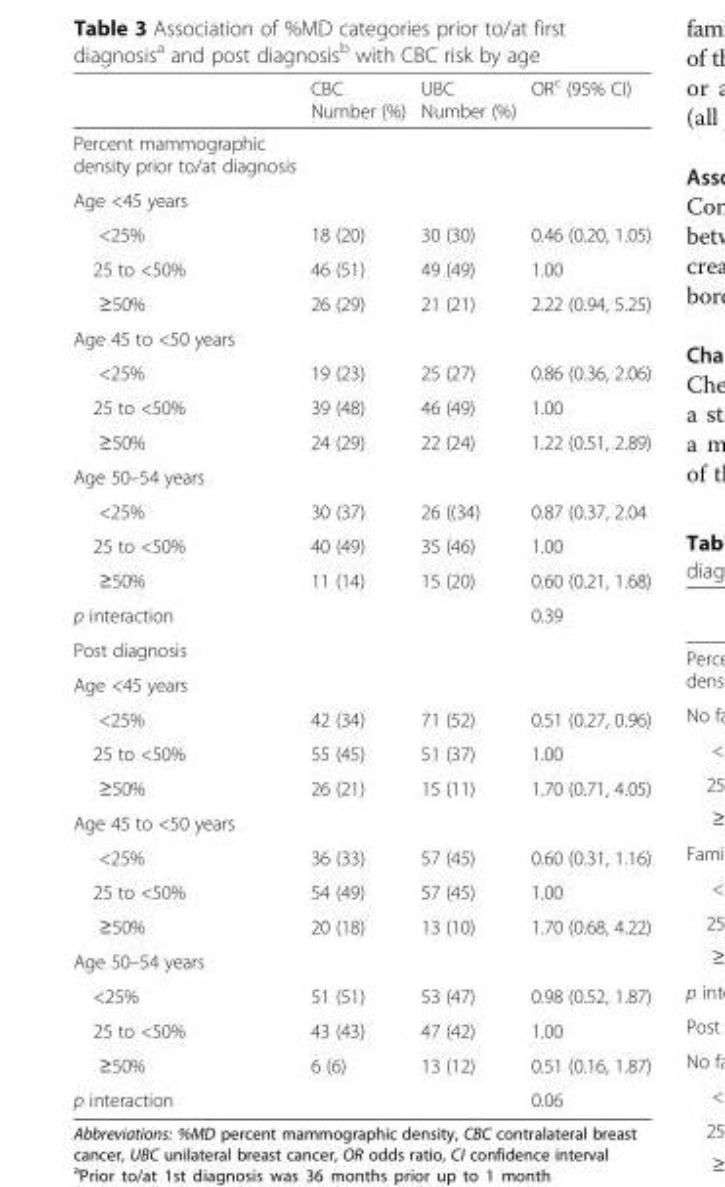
<table><thead><tr><td></td><td>CBC Number (%)</td><td>UBC Number (%)</td><td>OR<sup>c</sup> (95% CI)</td></tr></thead><tbody><tr><td colspan="4">Percent mammographic density prior to/at diagnosis</td></tr><tr><td colspan="4">Age &lt;45 years</td></tr><tr><td>&lt;25%</td><td>18 (20)</td><td>30 (30)</td><td>0.46 (0.20, 1.05)</td></tr><tr><td>25 to &lt;50%</td><td>46 (51)</td><td>49 (49)</td><td>1.00</td></tr><tr><td>≥50%</td><td>26 (29)</td><td>21 (21)</td><td>2.22 (0.94, 5.25)</td></tr><tr><td colspan="4">Age 45 to &lt;50 years</td></tr><tr><td>&lt;25%</td><td>19 (23)</td><td>25 (27)</td><td>0.86 (0.36, 2.06)</td></tr><tr><td>25 to &lt;50%</td><td>39 (48)</td><td>46 (49)</td><td>1.00</td></tr><tr><td>≥50%</td><td>24 (29)</td><td>22 (24)</td><td>1.22 (0.51, 2.89)</td></tr><tr><td colspan="4">Age 50–54 years</td></tr><tr><td>&lt;25%</td><td>30 (37)</td><td>26 ((34)</td><td>0.87 (0.37, 2.04</td></tr><tr><td>25 to &lt;50%</td><td>40 (49)</td><td>35 (46)</td><td>1.00</td></tr><tr><td>≥50%</td><td>11 (14)</td><td>15 (20)</td><td>0.60 (0.21, 1.68)</td></tr><tr><td>p interaction</td><td></td><td></td><td>0.39</td></tr><tr><td colspan="4">Post diagnosis</td></tr><tr><td colspan="4">Age &lt;45 years</td></tr><tr><td>&lt;25%</td><td>42 (34)</td><td>71 (52)</td><td>0.51 (0.27, 0.96)</td></tr><tr><td>25 to &lt;50%</td><td>55 (45)</td><td>51 (37)</td><td>1.00</td></tr><tr><td>≥50%</td><td>26 (21)</td><td>15 (11)</td><td>1.70 (0.71, 4.05)</td></tr><tr><td colspan="4">Age 45 to &lt;50 years</td></tr><tr><td>&lt;25%</td><td>36 (33)</td><td>57 (45)</td><td>0.60 (0.31, 1.16)</td></tr><tr><td>25 to &lt;50%</td><td>54 (49)</td><td>57 (45)</td><td>1.00</td></tr><tr><td>≥50%</td><td>20 (18)</td><td>13 (10)</td><td>1.70 (0.68, 4.22)</td></tr><tr><td colspan="4">Age 50–54 years</td></tr><tr><td>&lt;25%</td><td>51 (51)</td><td>53 (47)</td><td>0.98 (0.52, 1.87)</td></tr><tr><td>25 to &lt;50%</td><td>43 (43)</td><td>47 (42)</td><td>1.00</td></tr><tr><td>≥50%</td><td>6 (6)</td><td>13 (12)</td><td>0.51 (0.16, 1.87)</td></tr><tr><td>p interaction</td><td></td><td></td><td>0.06</td></tr></tbody></table>